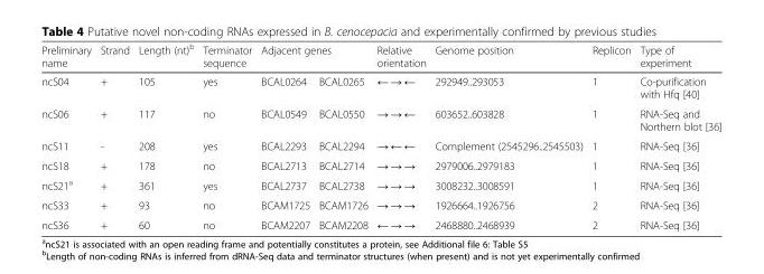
<table><thead><tr><td rowspan="2">Preliminary name ncS04</td><td rowspan="2">Strand +</td><td rowspan="2">Length (nt)<sup>b</sup> 105</td><td rowspan="2">Terminator sequence yes</td><td colspan="2">Adjacent genes</td><td rowspan="2">Relative orientation ← → ←</td><td rowspan="2">Genome position 292949..293053</td><td rowspan="2">Replicon 1</td><td rowspan="2">Type of experiment Co-purification with Hfq [40]</td></tr><tr><td>BCAL0264</td><td>BCAL0265</td></tr></thead><tbody><tr><td>ncS06</td><td>+</td><td>117</td><td>no</td><td>BCAL0549</td><td>BCAL0550</td><td>→ → ←</td><td>603652..603828</td><td>1</td><td>RNA-Seq and Northern blot [36]</td></tr><tr><td>ncS11</td><td>-</td><td>208</td><td>yes</td><td>BCAL2293</td><td>BCAL2294</td><td>→ ← ←</td><td>Complement (2545296..2545503)</td><td>1</td><td>RNA-Seq [36]</td></tr><tr><td>ncS18</td><td>+</td><td>178</td><td>no</td><td>BCAL2713</td><td>BCAL2714</td><td>→ → →</td><td>2979006..2979183</td><td>1</td><td>RNA-Seq [36]</td></tr><tr><td>ncS21<sup>a</sup></td><td>+</td><td>361</td><td>yes</td><td>BCAL2737</td><td>BCAL2738</td><td>→ → →</td><td>3008232..3008591</td><td>1</td><td>RNA-Seq [36]</td></tr><tr><td>ncS33</td><td>+</td><td>93</td><td>no</td><td>BCAM1725</td><td>BCAM1726</td><td>→ → →</td><td>1926664..1926756</td><td>2</td><td>RNA-Seq [36]</td></tr><tr><td>ncS36</td><td>+</td><td>60</td><td>no</td><td>BCAM2207</td><td>BCAM2208</td><td>← → →</td><td>2468880..2468939</td><td>2</td><td>RNA-Seq [36]</td></tr></tbody></table>